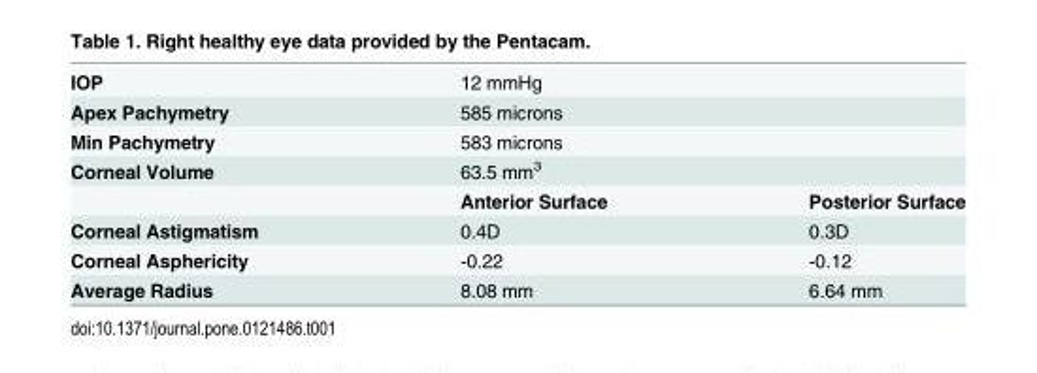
<table><tbody><tr><td>IOP</td><td colspan="2">12 mmHg</td></tr><tr><td>Apex Pachymetry</td><td colspan="2">585 microns</td></tr><tr><td>Min Pachymetry</td><td colspan="2">583 microns</td></tr><tr><td rowspan="2">Corneal Volume</td><td colspan="2">63.5 mm<sup>3</sup></td></tr><tr><td>Anterior Surface</td><td>Posterior Surface</td></tr><tr><td>Corneal Astigmatism</td><td>0.4D</td><td>0.3D</td></tr><tr><td>Corneal Asphericity</td><td>-0.22</td><td>-0.12</td></tr><tr><td>Average Radius</td><td>8.08 mm</td><td>6.64 mm</td></tr></tbody></table>